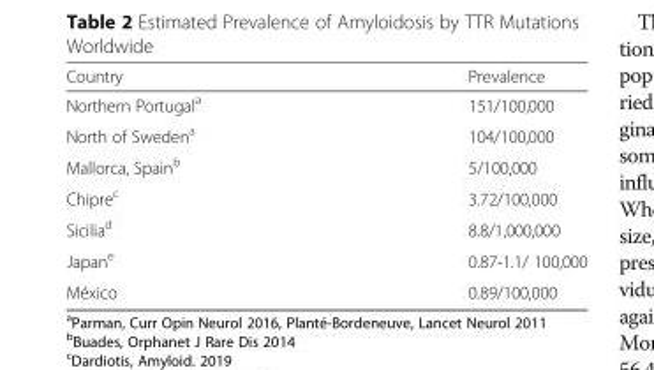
<table><thead><tr><td>Country</td><td>Prevalence</td></tr></thead><tbody><tr><td>Northern Portugal<sup>a</sup></td><td>151/100,000</td></tr><tr><td>North of Sweden<sup>a</sup></td><td>104/100,000</td></tr><tr><td>Mallorca, Spain<sup>b</sup></td><td>5/100,000</td></tr><tr><td>Chipre<sup>c</sup></td><td>3.72/100,000</td></tr><tr><td>Sicilia<sup>d</sup></td><td>8.8/1,000,000</td></tr><tr><td>Japan<sup>e</sup></td><td>0.87-1.1/ 100,000</td></tr><tr><td>México</td><td>0.89/100,000</td></tr></tbody></table>